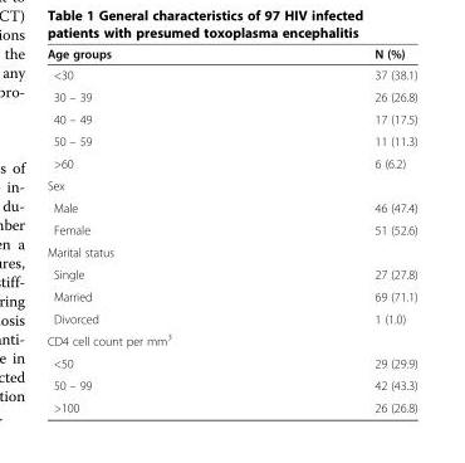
<table><thead><tr><td>Age groups</td><td>N (%)</td></tr></thead><tbody><tr><td>&lt;30</td><td>37 (38.1)</td></tr><tr><td>30 – 39</td><td>26 (26.8)</td></tr><tr><td>40 – 49</td><td>17 (17.5)</td></tr><tr><td>50 – 59</td><td>11 (11.3)</td></tr><tr><td>&gt;60</td><td>6 (6.2)</td></tr><tr><td colspan="2">Sex</td></tr><tr><td>Male</td><td>46 (47.4)</td></tr><tr><td>Female</td><td>51 (52.6)</td></tr><tr><td colspan="2">Marital status</td></tr><tr><td>Single</td><td>27 (27.8)</td></tr><tr><td>Married</td><td>69 (71.1)</td></tr><tr><td>Divorced</td><td>1 (1.0)</td></tr><tr><td colspan="2">CD4 cell count per mm<sup>3</sup></td></tr><tr><td>&lt;50</td><td>29 (29.9)</td></tr><tr><td>50 – 99</td><td>42 (43.3)</td></tr><tr><td>&gt;100</td><td>26 (26.8)</td></tr></tbody></table>